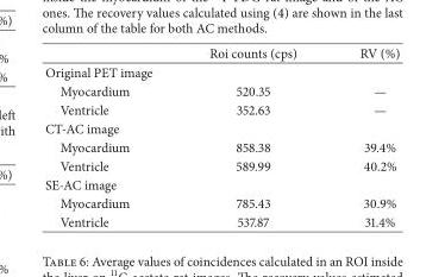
<table><thead><tr><td></td><td>Roi counts (cps)</td><td>RV (%)</td></tr></thead><tbody><tr><td colspan="3">Original PET image</td></tr><tr><td>Myocardium</td><td>520.35</td><td>—</td></tr><tr><td>Ventricle</td><td>352.63</td><td>—</td></tr><tr><td colspan="3">CT-AC image</td></tr><tr><td>Myocardium</td><td>858.38</td><td>39.4%</td></tr><tr><td>Ventricle</td><td>589.99</td><td>40.2%</td></tr><tr><td colspan="3">SE-AC image</td></tr><tr><td>Myocardium</td><td>785.43</td><td>30.9%</td></tr><tr><td>Ventricle</td><td>537.87</td><td>31.4%</td></tr></tbody></table>